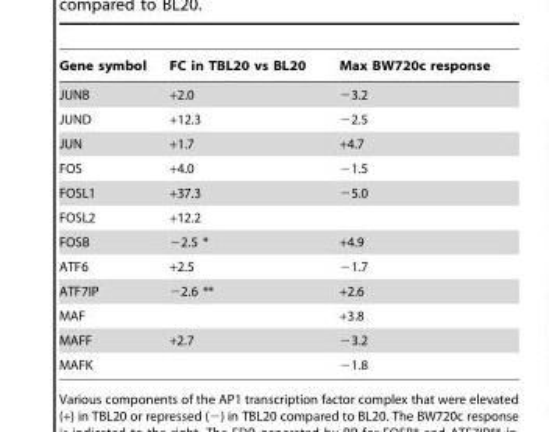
<table><thead><tr><td>Gene symbol</td><td>FC in TBL20 vs BL20</td><td>Max BW720c response</td></tr></thead><tbody><tr><td>JUNB</td><td>+2.0</td><td>−3.2</td></tr><tr><td>JUND</td><td>+12.3</td><td>−2.5</td></tr><tr><td>JUN</td><td>+1.7</td><td>+4.7</td></tr><tr><td>FOS</td><td>+4.0</td><td>−1.5</td></tr><tr><td>FOSL1</td><td>+37.3</td><td>−5.0</td></tr><tr><td>FOSL2</td><td>+12.2</td><td></td></tr><tr><td>FOSB</td><td>−2.5 *</td><td>+4.9</td></tr><tr><td>ATF6</td><td>+2.5</td><td>−1.7</td></tr><tr><td>ATF7IP</td><td>−2.6 **</td><td>+2.6</td></tr><tr><td>MAF</td><td></td><td>+3.8</td></tr><tr><td>MAFF</td><td>+2.7</td><td>−3.2</td></tr><tr><td>MAFK</td><td></td><td>−1.8</td></tr></tbody></table>